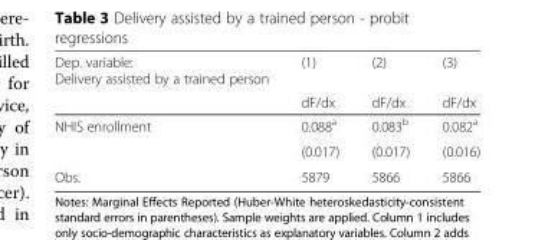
<table><thead><tr><td rowspan="2">Dep. variable: Delivery assisted by a trained person</td><td rowspan="2">(1) dF/dx</td><td rowspan="2">(2) dF/dx</td><td rowspan="2">(3) dF/dx</td></tr><tr></tr></thead><tbody><tr><td rowspan="2">NHIS enrollment</td><td>0.088<sup>a</sup></td><td>0.083<sup>b</sup></td><td>0.082<sup>a</sup></td></tr><tr><td>(0.017)</td><td>(0.017)</td><td>(0.016)</td></tr><tr><td>Obs.</td><td>5879</td><td>5866</td><td>5866</td></tr></tbody></table>